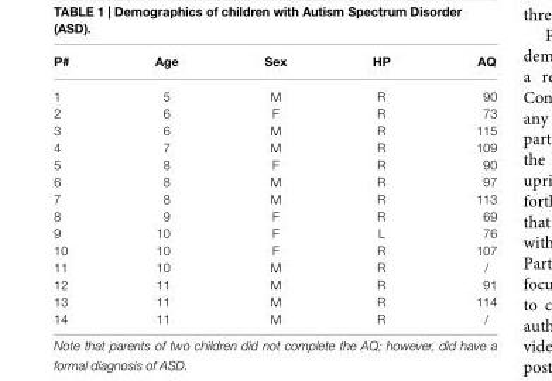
<table><thead><tr><td>P#</td><td>Age</td><td>Sex</td><td>HP</td><td>AQ</td></tr></thead><tbody><tr><td>1</td><td>5</td><td>M</td><td>R</td><td>90</td></tr><tr><td>2</td><td>6</td><td>F</td><td>R</td><td>73</td></tr><tr><td>3</td><td>6</td><td>M</td><td>R</td><td>115</td></tr><tr><td>4</td><td>7</td><td>M</td><td>R</td><td>109</td></tr><tr><td>5</td><td>8</td><td>F</td><td>R</td><td>90</td></tr><tr><td>6</td><td>8</td><td>M</td><td>R</td><td>97</td></tr><tr><td>7</td><td>8</td><td>M</td><td>R</td><td>113</td></tr><tr><td>8</td><td>9</td><td>F</td><td>R</td><td>69</td></tr><tr><td>9</td><td>10</td><td>F</td><td>L</td><td>76</td></tr><tr><td>10</td><td>10</td><td>F</td><td>R</td><td>107</td></tr><tr><td>11</td><td>10</td><td>M</td><td>R</td><td>/</td></tr><tr><td>12</td><td>11</td><td>M</td><td>R</td><td>91</td></tr><tr><td>13</td><td>11</td><td>M</td><td>R</td><td>114</td></tr><tr><td>14</td><td>11</td><td>M</td><td>R</td><td>/</td></tr></tbody></table>